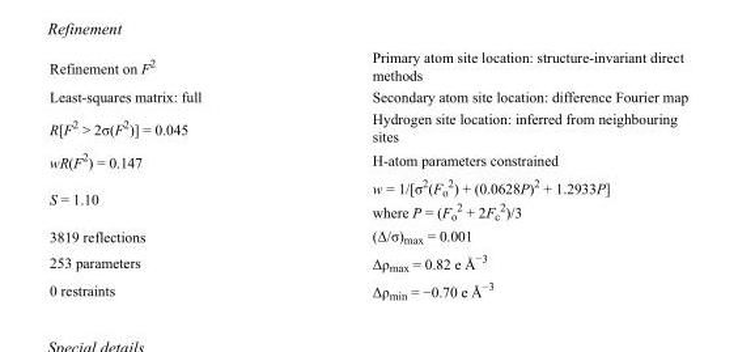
<table><tbody><tr><td>Refinement on F<sup>2</sup></td><td>Primary atom site location: structure-invariant direct methods</td></tr><tr><td>Least-squares matrix: full</td><td>Secondary atom site location: difference Fourier map</td></tr><tr><td>R[F<sup>2</sup> &gt; 2σ(F<sup>2</sup>)] = 0.045</td><td>Hydrogen site location: inferred from neighbouring sites</td></tr><tr><td>wR(F<sup>2</sup>) = 0.147</td><td>H-atom parameters constrained</td></tr><tr><td>S = 1.10</td><td>w = 1/[σ<sup>2</sup>(F<sub>o</sub> <sup>2</sup>) + (0.0628P)<sup>2</sup> + 1.2933P] where P = (F<sub>o</sub> <sup>2</sup> + 2F<sub>c</sub> <sup>2</sup>)/3</td></tr><tr><td>3819 reflections</td><td>(Δ/σ)<sub>max</sub> = 0.001</td></tr><tr><td>253 parameters</td><td>Δρ<sub>max</sub> = 0.82 e Å<sup>−3</sup></td></tr><tr><td>0 restraints</td><td>Δρ<sub>min</sub> = −0.70 e Å<sup>−3</sup></td></tr></tbody></table>